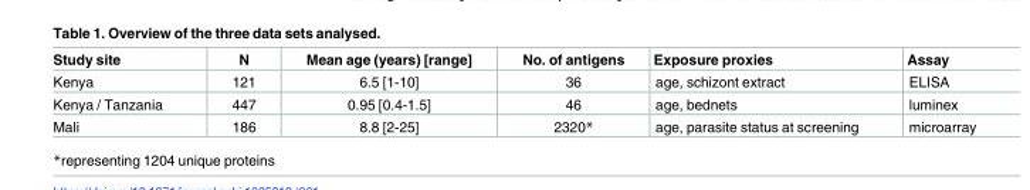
<table><thead><tr><td>Study site</td><td>N</td><td>Mean age (years) [range]</td><td>No. of antigens</td><td>Exposure proxies</td><td>Assay</td></tr></thead><tbody><tr><td>Kenya</td><td>121</td><td>6.5 [1-10]</td><td>36</td><td>age, schizont extract</td><td>ELISA</td></tr><tr><td>Kenya / Tanzania</td><td>447</td><td>0.95 [0.4-1.5]</td><td>46</td><td>age, bednets</td><td>luminex</td></tr><tr><td>Mali</td><td>186</td><td>8.8 [2-25]</td><td>2320*</td><td>age, parasite status at screening</td><td>microarray</td></tr></tbody></table>